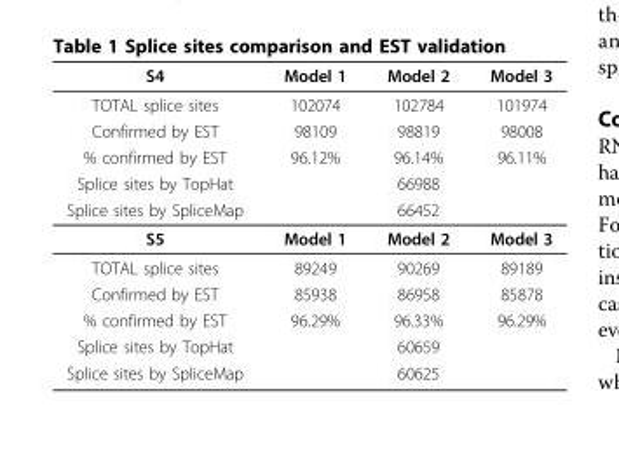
<table><thead><tr><td>S4</td><td>Model 1</td><td>Model 2</td><td>Model 3</td></tr></thead><tbody><tr><td>TOTAL splice sites</td><td>102074</td><td>102784</td><td>101974</td></tr><tr><td>Confirmed by EST</td><td>98109</td><td>98819</td><td>98008</td></tr><tr><td>% confirmed by EST</td><td>96.12%</td><td>96.14%</td><td>96.11%</td></tr><tr><td>Splice sites by TopHat</td><td colspan="3">66988</td></tr><tr><td>Splice sites by SpliceMap</td><td colspan="3">66452</td></tr><tr><td>S5</td><td>Model 1</td><td>Model 2</td><td>Model 3</td></tr><tr><td>TOTAL splice sites</td><td>89249</td><td>90269</td><td>89189</td></tr><tr><td>Confirmed by EST</td><td>85938</td><td>86958</td><td>85878</td></tr><tr><td>% confirmed by EST</td><td>96.29%</td><td>96.33%</td><td>96.29%</td></tr><tr><td>Splice sites by TopHat</td><td colspan="3">60659</td></tr><tr><td>Splice sites by SpliceMap</td><td colspan="3">60625</td></tr></tbody></table>